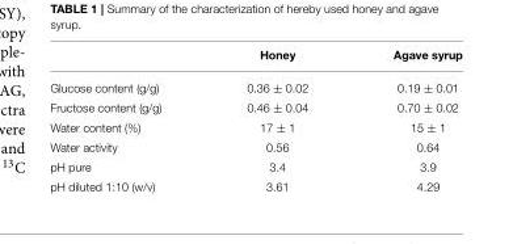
<table><thead><tr><td></td><td>Honey</td><td>Agave syrup</td></tr></thead><tbody><tr><td>Glucose content (g/g)</td><td>0.36 ± 0.02</td><td>0.19 ± 0.01</td></tr><tr><td>Fructose content (g/g)</td><td>0.46 ± 0.04</td><td>0.70 ± 0.02</td></tr><tr><td>Water content (%)</td><td>17 ± 1</td><td>15 ± 1</td></tr><tr><td>Water activity</td><td>0.56</td><td>0.64</td></tr><tr><td>pH pure</td><td>3.4</td><td>3.9</td></tr><tr><td>pH diluted 1:10 (w/v)</td><td>3.61</td><td>4.29</td></tr></tbody></table>